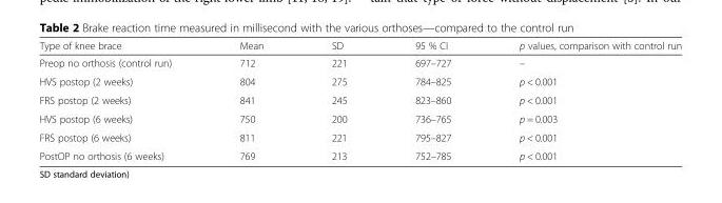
<table><thead><tr><td>Type of knee brace</td><td>Mean</td><td>SD</td><td>95 % CI</td><td>p values, comparison with control run</td></tr></thead><tbody><tr><td>Preop no orthosis (control run)</td><td>712</td><td>221</td><td>697–727</td><td>–</td></tr><tr><td>HVS postop (2 weeks)</td><td>804</td><td>275</td><td>784–825</td><td>p &lt; 0.001</td></tr><tr><td>FRS postop (2 weeks)</td><td>841</td><td>245</td><td>823–860</td><td>p &lt; 0.001</td></tr><tr><td>HVS postop (6 weeks)</td><td>750</td><td>200</td><td>736–765</td><td>p = 0.003</td></tr><tr><td>FRS postop (6 weeks)</td><td>811</td><td>221</td><td>795–827</td><td>p &lt; 0.001</td></tr><tr><td>PostOP no orthosis (6 weeks)</td><td>769</td><td>213</td><td>752–785</td><td>p &lt; 0.001</td></tr></tbody></table>